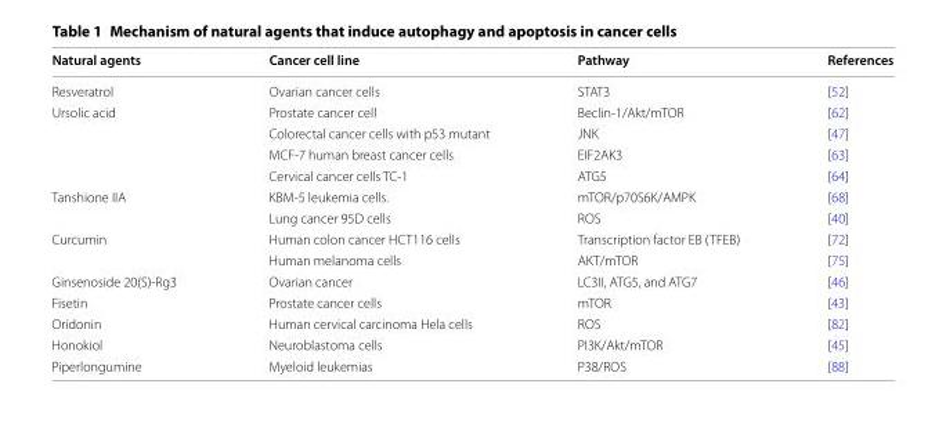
<table><thead><tr><td>Natural agents</td><td>Cancer cell line</td><td>Pathway</td><td>References</td></tr></thead><tbody><tr><td>Resveratrol</td><td>Ovarian cancer cells</td><td>STAT3</td><td>[52]</td></tr><tr><td rowspan="4">Ursolic acid</td><td>Prostate cancer cell</td><td>Beclin-1/Akt/mTOR</td><td>[62]</td></tr><tr><td>Colorectal cancer cells with p53 mutant</td><td>JNK</td><td>[47]</td></tr><tr><td>MCF-7 human breast cancer cells</td><td>EIF2AK3</td><td>[63]</td></tr><tr><td>Cervical cancer cells TC-1</td><td>ATG5</td><td>[64]</td></tr><tr><td rowspan="2">Tanshione IIA</td><td>KBM-5 leukemia cells.</td><td>mTOR/p70S6K/AMPK</td><td>[68]</td></tr><tr><td>Lung cancer 95D cells</td><td>ROS</td><td>[40]</td></tr><tr><td rowspan="2">Curcumin</td><td>Human colon cancer HCT116 cells</td><td>Transcription factor EB (TFEB)</td><td>[72]</td></tr><tr><td>Human melanoma cells</td><td>AKT/mTOR</td><td>[75]</td></tr><tr><td>Ginsenoside 20(S)-Rg3</td><td>Ovarian cancer</td><td>LC3II, ATG5, and ATG7</td><td>[46]</td></tr><tr><td>Fisetin</td><td>Prostate cancer cells</td><td>mTOR</td><td>[43]</td></tr><tr><td>Oridonin</td><td>Human cervical carcinoma Hela cells</td><td>ROS</td><td>[82]</td></tr><tr><td>Honokiol</td><td>Neuroblastoma cells</td><td>PI3K/Akt/mTOR</td><td>[45]</td></tr><tr><td>Piperlongumine</td><td>Myeloid leukemias</td><td>P38/ROS</td><td>[88]</td></tr></tbody></table>